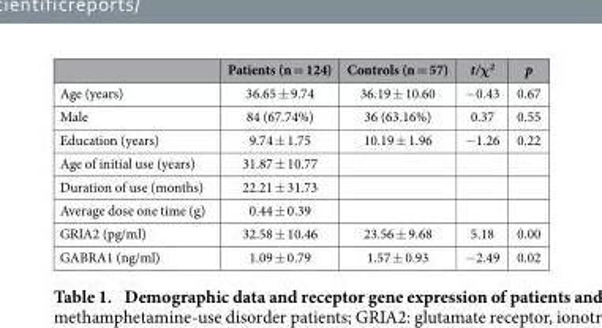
<table><thead><tr><td></td><td>Patients (n = 124)</td><td>Controls (n = 57)</td><td>t/χ<sup>2</sup></td><td>p</td></tr></thead><tbody><tr><td>Age (years)</td><td>36.65 ± 9.74</td><td>36.19 ± 10.60</td><td>− 0.43</td><td>0.67</td></tr><tr><td>Male</td><td>84 (67.74%)</td><td>36 (63.16%)</td><td>0.37</td><td>0.55</td></tr><tr><td>Education (years)</td><td>9.74 ± 1.75</td><td>10.19 ± 1.96</td><td>− 1.26</td><td>0.22</td></tr><tr><td>Age of initial use (years)</td><td>31.87 ± 10.77</td><td></td><td></td><td></td></tr><tr><td>Duration of use (months)</td><td>22.21 ± 31.73</td><td></td><td></td><td></td></tr><tr><td>Average dose one time (g)</td><td>0.44 ± 0.39</td><td></td><td></td><td></td></tr><tr><td>GRIA2 (pg/ml)</td><td>32.58 ± 10.46</td><td>23.56 ± 9.68</td><td>5.18</td><td>0.00</td></tr><tr><td>GABRA1 (ng/ml)</td><td>1.09 ± 0.79</td><td>1.57 ± 0.93</td><td>− 2.49</td><td>0.02</td></tr></tbody></table>